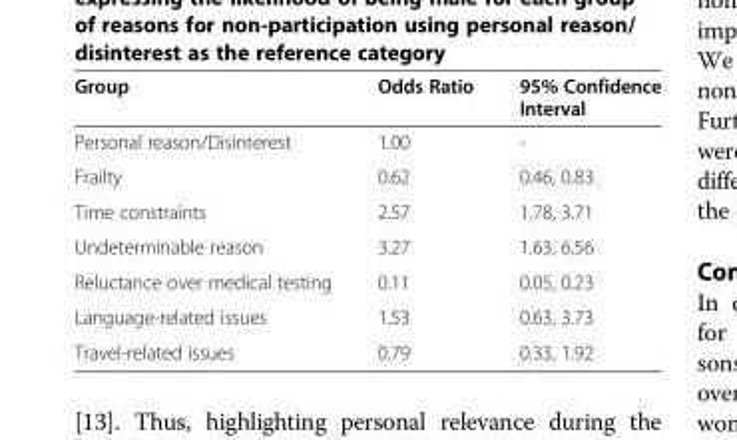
<table><thead><tr><td>Group</td><td>Odds Ratio</td><td>95% Confidence Interval</td></tr></thead><tbody><tr><td>Personal reason/Disinterest</td><td>1.00</td><td>-</td></tr><tr><td>Frailty</td><td>0.62</td><td>0.46, 0.83</td></tr><tr><td>Time constraints</td><td>2.57</td><td>1.78, 3.71</td></tr><tr><td>Undeterminable reason</td><td>3.27</td><td>1.63, 6.56</td></tr><tr><td>Reluctance over medical testing</td><td>0.11</td><td>0.05, 0.23</td></tr><tr><td>Language-related issues</td><td>1.53</td><td>0.63, 3.73</td></tr><tr><td>Travel-related issues</td><td>0.79</td><td>0.33, 1.92</td></tr></tbody></table>